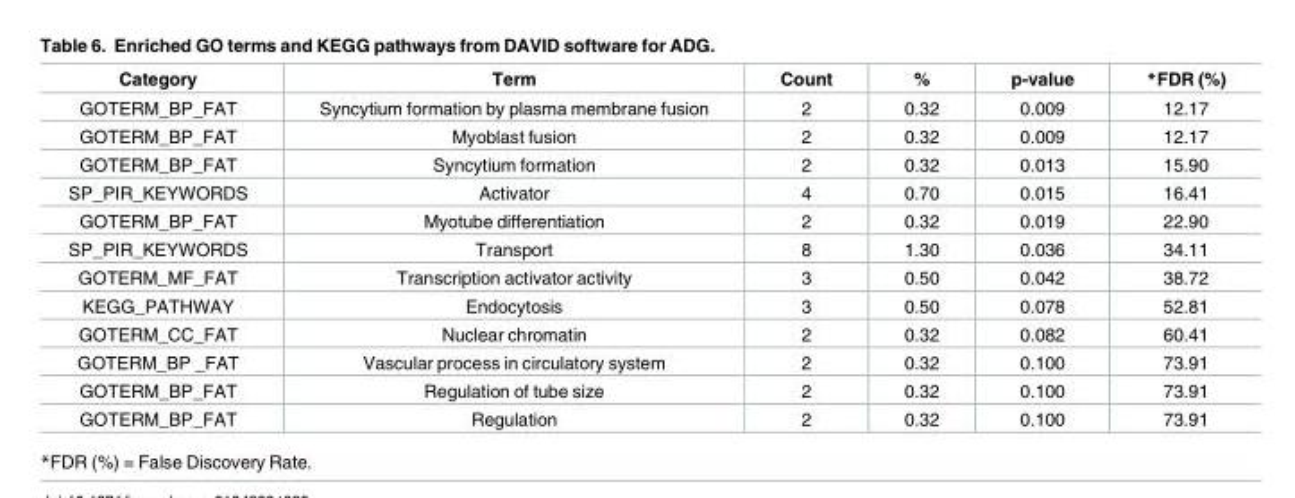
<table><thead><tr><td>Category</td><td>Term</td><td>Count</td><td>%</td><td>p-value</td><td>*FDR (%)</td></tr></thead><tbody><tr><td>GOTERM_BP_FAT</td><td>Syncytium formation by plasma membrane fusion</td><td>2</td><td>0.32</td><td>0.009</td><td>12.17</td></tr><tr><td>GOTERM_BP_FAT</td><td>Myoblast fusion</td><td>2</td><td>0.32</td><td>0.009</td><td>12.17</td></tr><tr><td>GOTERM_BP_FAT</td><td>Syncytium formation</td><td>2</td><td>0.32</td><td>0.013</td><td>15.90</td></tr><tr><td>SP_PIR_KEYWORDS</td><td>Activator</td><td>4</td><td>0.70</td><td>0.015</td><td>16.41</td></tr><tr><td>GOTERM_BP_FAT</td><td>Myotube differentiation</td><td>2</td><td>0.32</td><td>0.019</td><td>22.90</td></tr><tr><td>SP_PIR_KEYWORDS</td><td>Transport</td><td>8</td><td>1.30</td><td>0.036</td><td>34.11</td></tr><tr><td>GOTERM_MF_FAT</td><td>Transcription activator activity</td><td>3</td><td>0.50</td><td>0.042</td><td>38.72</td></tr><tr><td>KEGG_PATHWAY</td><td>Endocytosis</td><td>3</td><td>0.50</td><td>0.078</td><td>52.81</td></tr><tr><td>GOTERM_CC_FAT</td><td>Nuclear chromatin</td><td>2</td><td>0.32</td><td>0.082</td><td>60.41</td></tr><tr><td>GOTERM_BP _FAT</td><td>Vascular process in circulatory system</td><td>2</td><td>0.32</td><td>0.100</td><td>73.91</td></tr><tr><td>GOTERM_BP_FAT</td><td>Regulation of tube size</td><td>2</td><td>0.32</td><td>0.100</td><td>73.91</td></tr><tr><td>GOTERM_BP_FAT</td><td>Regulation</td><td>2</td><td>0.32</td><td>0.100</td><td>73.91</td></tr></tbody></table>